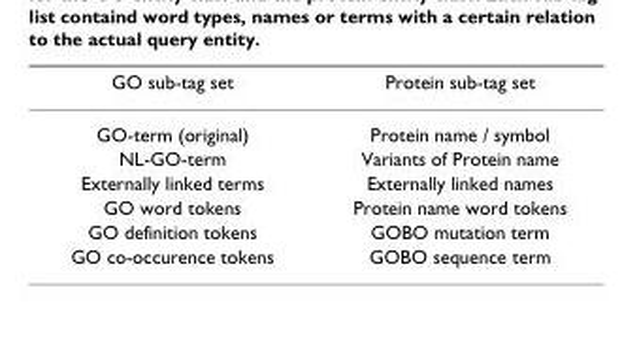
<table><thead><tr><td>GO sub-tag set</td><td>Protein sub-tag set</td></tr></thead><tbody><tr><td>GO-term (original)</td><td>Protein name / symbol</td></tr><tr><td>NL-GO-term</td><td>Variants of Protein name</td></tr><tr><td>Externally linked terms</td><td>Externally linked names</td></tr><tr><td>GO word tokens</td><td>Protein name word tokens</td></tr><tr><td>GO definition tokens</td><td>GOBO mutation term</td></tr><tr><td>GO co-occurence tokens</td><td>GOBO sequence term</td></tr></tbody></table>